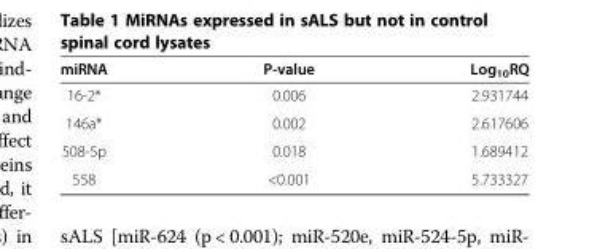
<table><thead><tr><td>miRNA</td><td>P-value</td><td>Log<sub>10</sub>RQ</td></tr></thead><tbody><tr><td>16-2*</td><td>0.006</td><td>2.931744</td></tr><tr><td>146a*</td><td>0.002</td><td>2.617606</td></tr><tr><td>508-5p</td><td>0.018</td><td>1.689412</td></tr><tr><td>558</td><td>&lt;0.001</td><td>5.733327</td></tr></tbody></table>